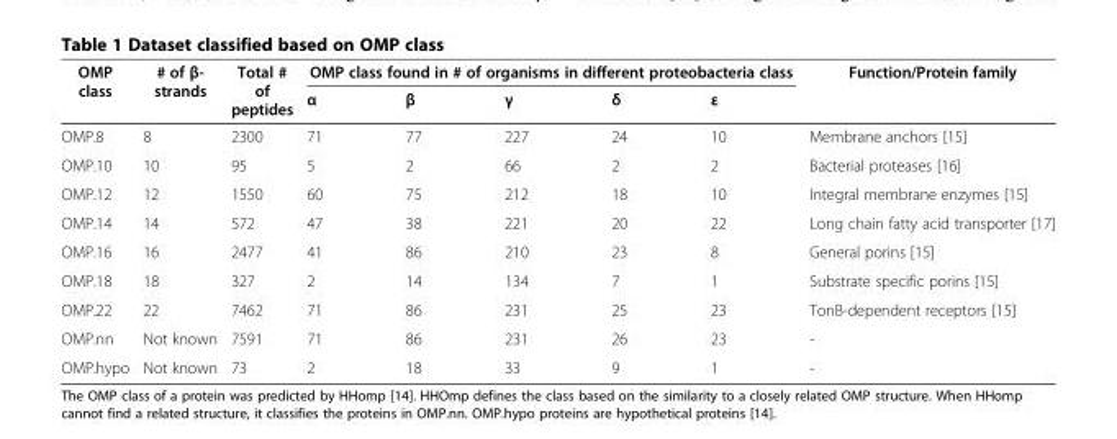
<table><thead><tr><td rowspan="2">OMP class</td><td rowspan="2"># of β- strands</td><td rowspan="2">Total # of peptides</td><td colspan="5">OMP class found in # of organisms in different proteobacteria class</td><td rowspan="2">Function/Protein family</td></tr><tr><td>α</td><td>β</td><td>γ</td><td>δ</td><td>ε</td></tr></thead><tbody><tr><td>OMP.8</td><td>8</td><td>2300</td><td>71</td><td>77</td><td>227</td><td>24</td><td>10</td><td>Membrane anchors [15]</td></tr><tr><td>OMP.10</td><td>10</td><td>95</td><td>5</td><td>2</td><td>66</td><td>2</td><td>2</td><td>Bacterial proteases [16]</td></tr><tr><td>OMP.12</td><td>12</td><td>1550</td><td>60</td><td>75</td><td>212</td><td>18</td><td>10</td><td>Integral membrane enzymes [15]</td></tr><tr><td>OMP.14</td><td>14</td><td>572</td><td>47</td><td>38</td><td>221</td><td>20</td><td>22</td><td>Long chain fatty acid transporter [17]</td></tr><tr><td>OMP.16</td><td>16</td><td>2477</td><td>41</td><td>86</td><td>210</td><td>23</td><td>8</td><td>General porins [15]</td></tr><tr><td>OMP.18</td><td>18</td><td>327</td><td>2</td><td>14</td><td>134</td><td>7</td><td>1</td><td>Substrate specific porins [15]</td></tr><tr><td>OMP.22</td><td>22</td><td>7462</td><td>71</td><td>86</td><td>231</td><td>25</td><td>23</td><td>TonB-dependent receptors [15]</td></tr><tr><td>OMP.nn</td><td>Not known</td><td>7591</td><td>71</td><td>86</td><td>231</td><td>26</td><td>23</td><td>-</td></tr><tr><td>OMP.hypo</td><td>Not known</td><td>73</td><td>2</td><td>18</td><td>33</td><td>9</td><td>1</td><td>-</td></tr></tbody></table>